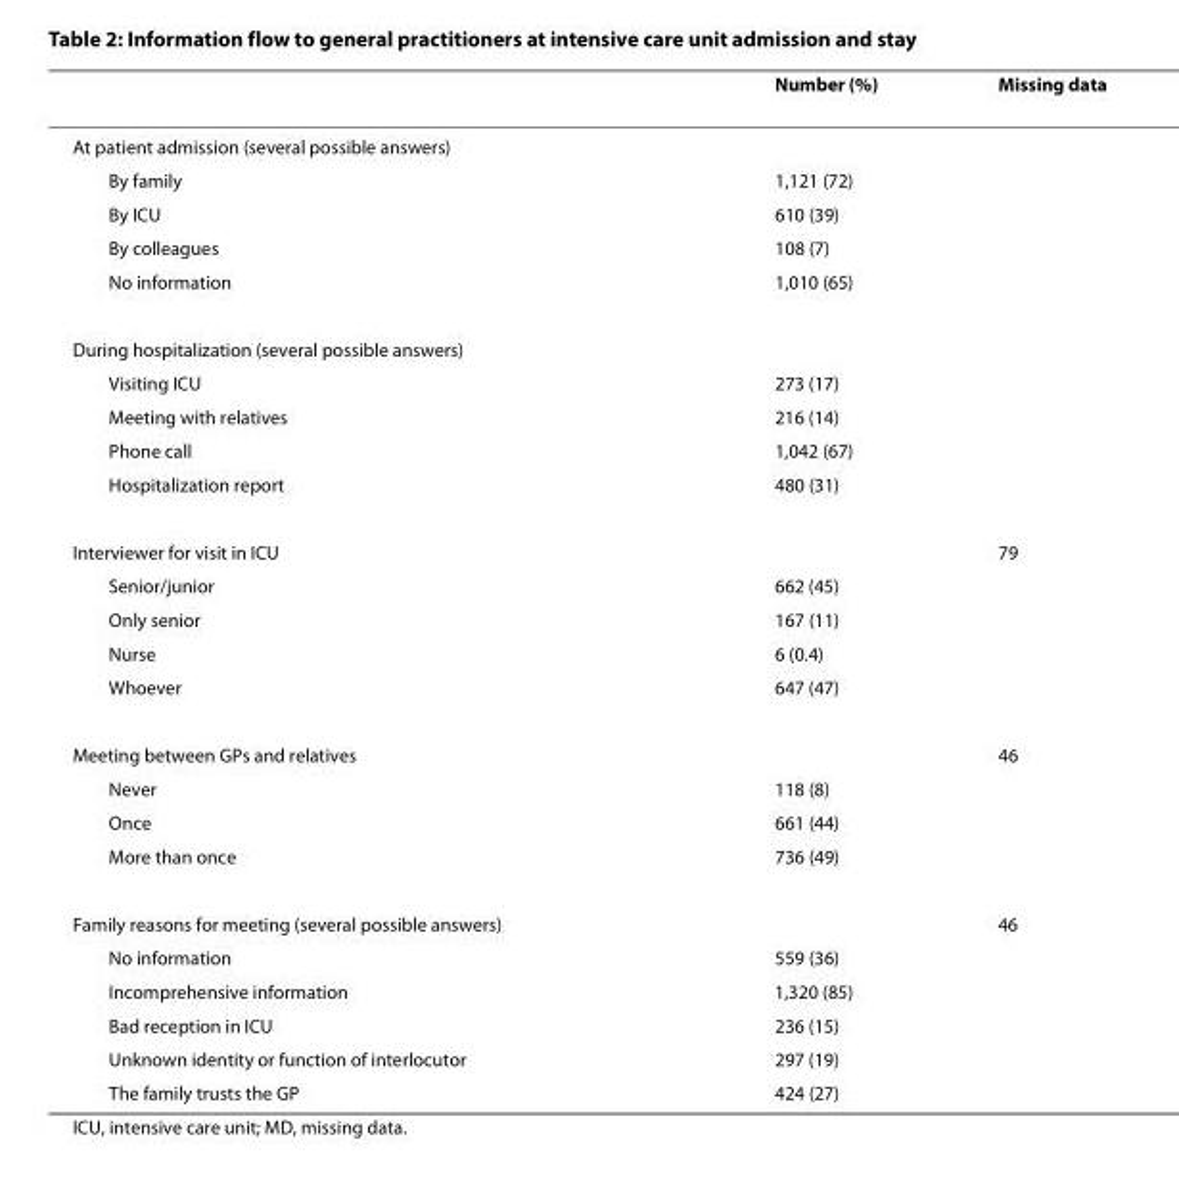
<table><thead><tr><td></td><td>Number (%)</td><td>Missing data</td></tr></thead><tbody><tr><td colspan="3">At patient admission (several possible answers)</td></tr><tr><td>By family</td><td>1,121 (72)</td><td></td></tr><tr><td>By ICU</td><td>610 (39)</td><td></td></tr><tr><td>By colleagues</td><td>108 (7)</td><td></td></tr><tr><td>No information</td><td>1,010 (65)</td><td></td></tr><tr><td colspan="3">During hospitalization (several possible answers)</td></tr><tr><td>Visiting ICU</td><td>273 (17)</td><td></td></tr><tr><td>Meeting with relatives</td><td>216 (14)</td><td></td></tr><tr><td>Phone call</td><td>1,042 (67)</td><td></td></tr><tr><td>Hospitalization report</td><td>480 (31)</td><td></td></tr><tr><td>Interviewer for visit in ICU</td><td></td><td>79</td></tr><tr><td>Senior/junior</td><td>662 (45)</td><td></td></tr><tr><td>Only senior</td><td>167 (11)</td><td></td></tr><tr><td>Nurse</td><td>6 (0.4)</td><td></td></tr><tr><td>Whoever</td><td>647 (47)</td><td></td></tr><tr><td>Meeting between GPs and relatives</td><td></td><td>46</td></tr><tr><td>Never</td><td>118 (8)</td><td></td></tr><tr><td>Once</td><td>661 (44)</td><td></td></tr><tr><td>More than once</td><td>736 (49)</td><td></td></tr><tr><td>Family reasons for meeting (several possible answers)</td><td></td><td>46</td></tr><tr><td>No information</td><td>559 (36)</td><td></td></tr><tr><td>Incomprehensive information</td><td>1,320 (85)</td><td></td></tr><tr><td>Bad reception in ICU</td><td>236 (15)</td><td></td></tr><tr><td>Unknown identity or function of interlocutor</td><td>297 (19)</td><td></td></tr><tr><td>The family trusts the GP</td><td>424 (27)</td><td></td></tr></tbody></table>